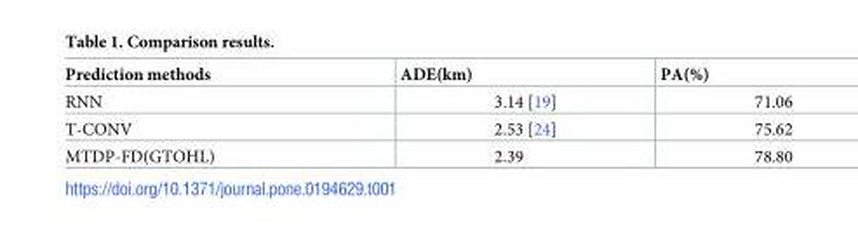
<table><thead><tr><td>Prediction methods</td><td>ADE(km)</td><td>PA(%)</td></tr></thead><tbody><tr><td>RNN</td><td>3.14 [19]</td><td>71.06</td></tr><tr><td>T-CONV</td><td>2.53 [24]</td><td>75.62</td></tr><tr><td>MTDP-FD(GTOHL)</td><td>2.39</td><td>78.80</td></tr></tbody></table>